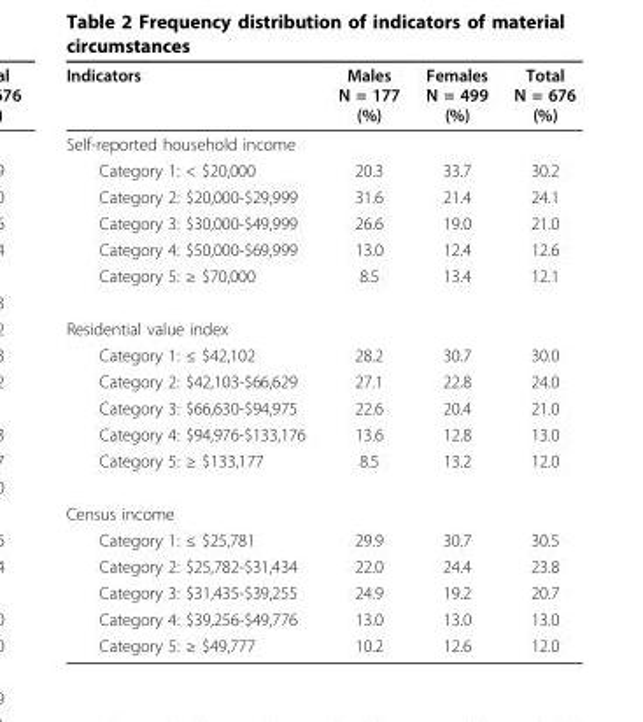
<table><thead><tr><td>Indicators</td><td>Males N = 177 (%)</td><td>Females N = 499 (%)</td><td>Total N = 676 (%)</td></tr></thead><tbody><tr><td colspan="4">Self-reported household income</td></tr><tr><td>Category 1: &lt; $20,000</td><td>20.3</td><td>33.7</td><td>30.2</td></tr><tr><td>Category 2: $20,000-$29,999</td><td>31.6</td><td>21.4</td><td>24.1</td></tr><tr><td>Category 3: $30,000-$49,999</td><td>26.6</td><td>19.0</td><td>21.0</td></tr><tr><td>Category 4: $50,000-$69,999</td><td>13.0</td><td>12.4</td><td>12.6</td></tr><tr><td>Category 5: ≥ $70,000</td><td>8.5</td><td>13.4</td><td>12.1</td></tr><tr><td colspan="4">Residential value index</td></tr><tr><td>Category 1: ≤ $42,102</td><td>28.2</td><td>30.7</td><td>30.0</td></tr><tr><td>Category 2: $42,103-$66,629</td><td>27.1</td><td>22.8</td><td>24.0</td></tr><tr><td>Category 3: $66,630-$94,975</td><td>22.6</td><td>20.4</td><td>21.0</td></tr><tr><td>Category 4: $94,976-$133,176</td><td>13.6</td><td>12.8</td><td>13.0</td></tr><tr><td>Category 5: ≥ $133,177</td><td>8.5</td><td>13.2</td><td>12.0</td></tr><tr><td colspan="4">Census income</td></tr><tr><td>Category 1: ≤ $25,781</td><td>29.9</td><td>30.7</td><td>30.5</td></tr><tr><td>Category 2: $25,782-$31,434</td><td>22.0</td><td>24.4</td><td>23.8</td></tr><tr><td>Category 3: $31,435-$39,255</td><td>24.9</td><td>19.2</td><td>20.7</td></tr><tr><td>Category 4: $39,256-$49,776</td><td>13.0</td><td>13.0</td><td>13.0</td></tr><tr><td>Category 5: ≥ $49,777</td><td>10.2</td><td>12.6</td><td>12.0</td></tr></tbody></table>